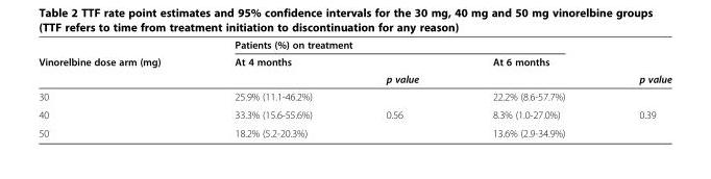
<table><thead><tr><td rowspan="3">Vinorelbine dose arm (mg)</td><td colspan="3">Patients (%) on treatment</td><td rowspan="3">p value</td></tr><tr><td rowspan="2">At 4 months</td><td rowspan="2">p value</td><td rowspan="2">At 6 months</td></tr><tr></tr></thead><tbody><tr><td>30</td><td>25.9% (11.1-46.2%)</td><td rowspan="3">0.56</td><td>22.2% (8.6-57.7%)</td><td rowspan="3">0.39</td></tr><tr><td>40</td><td>33.3% (15.6-55.6%)</td><td>8.3% (1.0-27.0%)</td></tr><tr><td>50</td><td>18.2% (5.2-20.3%)</td><td>13.6% (2.9-34.9%)</td></tr></tbody></table>